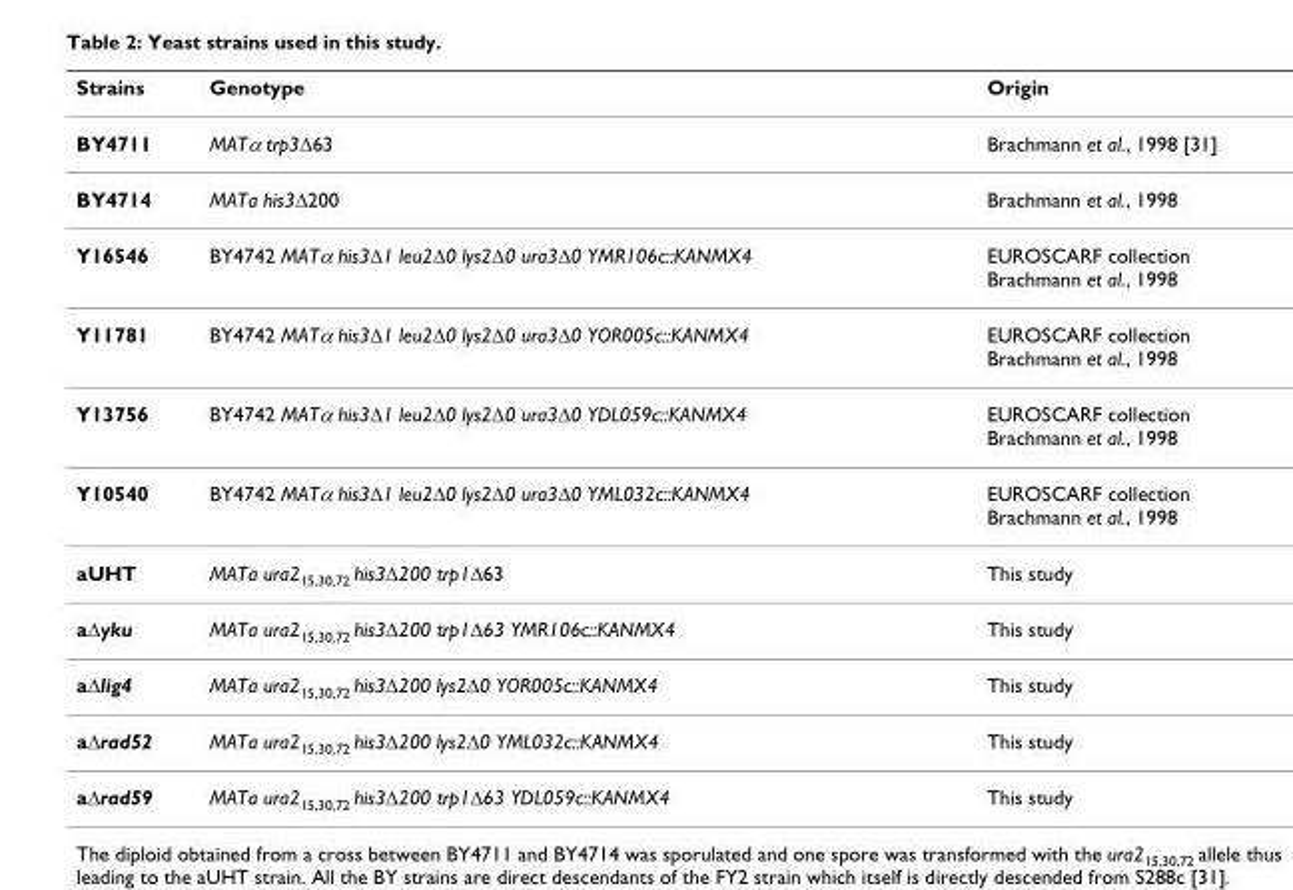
<table><thead><tr><td>Strains</td><td>Genotype</td><td>Origin</td></tr></thead><tbody><tr><td>BY4711</td><td>MATα trp3Δ63</td><td>Brachmann et al., 1998 [31]</td></tr><tr><td>BY4714</td><td>MATa his3Δ200</td><td>Brachmann et al., 1998</td></tr><tr><td>Y16546</td><td>BY4742 MATα his3Δ1 leu2Δ0 lys2Δ0 ura3Δ0 YMR106c::KANMX4</td><td>EUROSCARF collection Brachmann et al., 1998</td></tr><tr><td>Y11781</td><td>BY4742 MATα his3Δ1 leu2Δ0 lys2Δ0 ura3Δ0 YOR005c::KANMX4</td><td>EUROSCARF collection Brachmann et al., 1998</td></tr><tr><td>Y13756</td><td>BY4742 MATα his3Δ1 leu2Δ0 lys2Δ0 ura3Δ0 YDL059c::KANMX4</td><td>EUROSCARF collection Brachmann et al., 1998</td></tr><tr><td>Y10540</td><td>BY4742 MATα his3Δ1 leu2Δ0 lys2Δ0 ura3Δ0 YML032c::KANMX4</td><td>EUROSCARF collection Brachmann et al., 1998</td></tr><tr><td>aUHT</td><td>MATa ura2<sub>15,30,72</sub> his3Δ200 trp1Δ63</td><td>This study</td></tr><tr><td>aΔyku</td><td>MATa ura2<sub>15,30,72</sub> his3Δ200 trp1Δ63 YMR106c::KANMX4</td><td>This study</td></tr><tr><td>aΔlig4</td><td>MATa ura2<sub>15,30,72</sub> his3Δ200 lys2Δ0 YOR005c::KANMX4</td><td>This study</td></tr><tr><td>aΔrad52</td><td>MATa ura2<sub>15,30,72</sub> his3Δ200 lys2Δ0 YML032c::KANMX4</td><td>This study</td></tr><tr><td>aΔrad59</td><td>MATa ura2<sub>15,30,72</sub> his3Δ200 trp1Δ63 YDL059c::KANMX4</td><td>This study</td></tr></tbody></table>